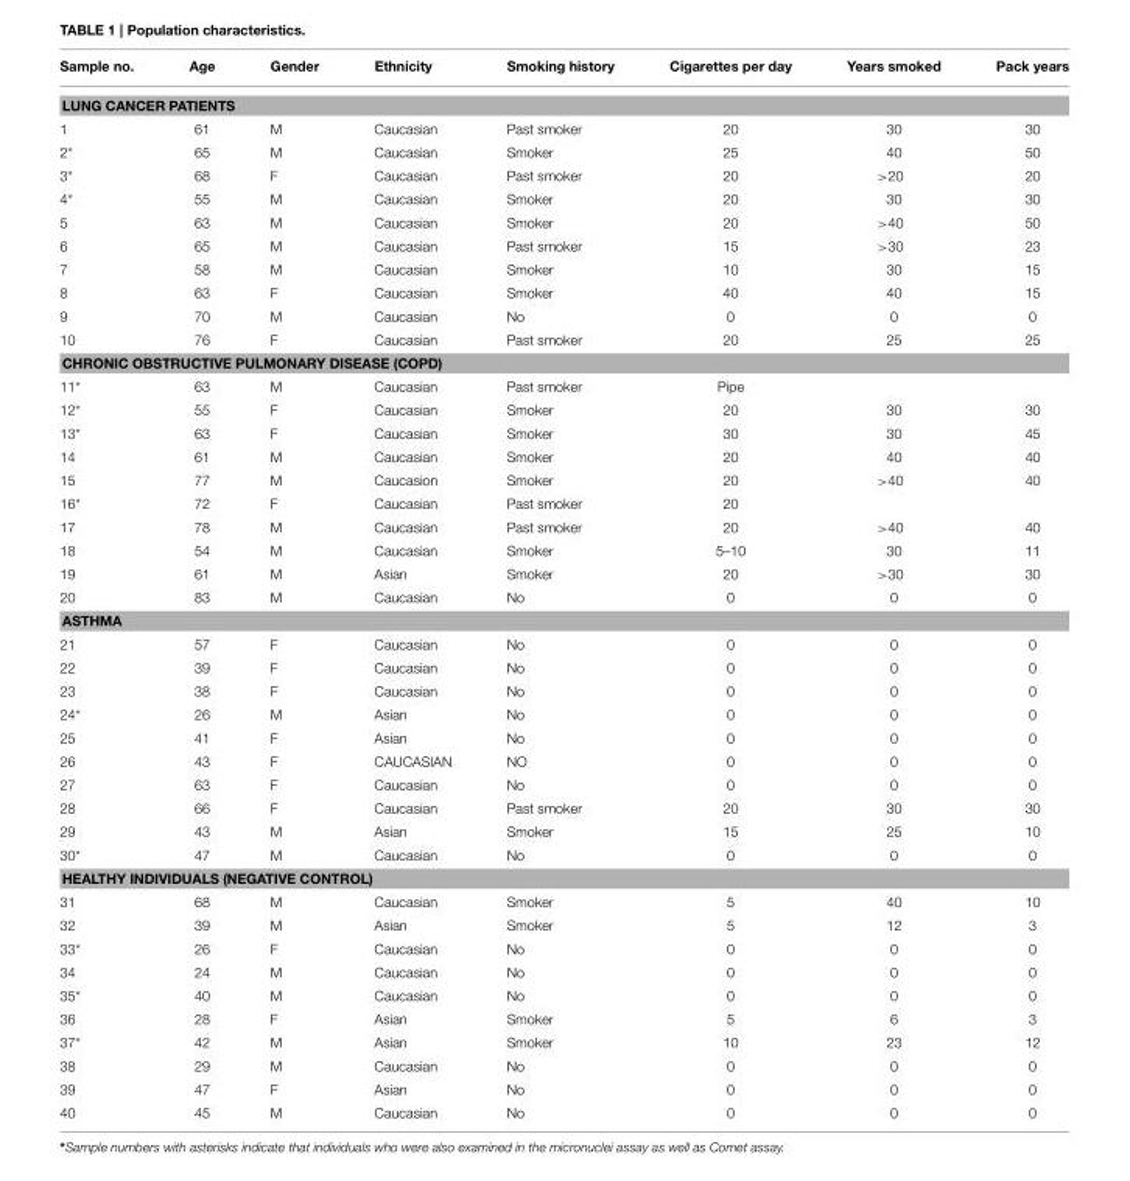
<table><thead><tr><td>Sample no.</td><td>Age</td><td>Gender</td><td>Ethnicity</td><td>Smoking history</td><td>Cigarettes per day</td><td>Years smoked</td><td>Pack years</td></tr></thead><tbody><tr><td colspan="8">LUNG CANCER PATIENTS</td></tr><tr><td>1</td><td>61</td><td>M</td><td>Caucasian</td><td>Past smoker</td><td>20</td><td>30</td><td>30</td></tr><tr><td>2*</td><td>65</td><td>M</td><td>Caucasian</td><td>Smoker</td><td>25</td><td>40</td><td>50</td></tr><tr><td>3*</td><td>68</td><td>F</td><td>Caucasian</td><td>Past smoker</td><td>20</td><td>&gt;20</td><td>20</td></tr><tr><td>4*</td><td>55</td><td>M</td><td>Caucasian</td><td>Smoker</td><td>20</td><td>30</td><td>30</td></tr><tr><td>5</td><td>63</td><td>M</td><td>Caucasian</td><td>Smoker</td><td>20</td><td>&gt;40</td><td>50</td></tr><tr><td>6</td><td>65</td><td>M</td><td>Caucasian</td><td>Past smoker</td><td>15</td><td>&gt;30</td><td>23</td></tr><tr><td>7</td><td>58</td><td>M</td><td>Caucasian</td><td>Smoker</td><td>10</td><td>30</td><td>15</td></tr><tr><td>8</td><td>63</td><td>F</td><td>Caucasian</td><td>Smoker</td><td>40</td><td>40</td><td>15</td></tr><tr><td>9</td><td>70</td><td>M</td><td>Caucasian</td><td>No</td><td>0</td><td>0</td><td>0</td></tr><tr><td>10</td><td>76</td><td>F</td><td>Caucasian</td><td>Past smoker</td><td>20</td><td>25</td><td>25</td></tr><tr><td colspan="8">CHRONIC OBSTRUCTIVE PULMONARY DISEASE (COPD)</td></tr><tr><td>11*</td><td>63</td><td>M</td><td>Caucasian</td><td>Past smoker</td><td>Pipe</td><td></td><td></td></tr><tr><td>12*</td><td>55</td><td>F</td><td>Caucasian</td><td>Smoker</td><td>20</td><td>30</td><td>30</td></tr><tr><td>13*</td><td>63</td><td>F</td><td>Caucasian</td><td>Smoker</td><td>30</td><td>30</td><td>45</td></tr><tr><td>14</td><td>61</td><td>M</td><td>Caucasian</td><td>Smoker</td><td>20</td><td>40</td><td>40</td></tr><tr><td>15</td><td>77</td><td>M</td><td>Caucasion</td><td>Smoker</td><td>20</td><td>&gt;40</td><td>40</td></tr><tr><td>16*</td><td>72</td><td>F</td><td>Caucasian</td><td>Past smoker</td><td>20</td><td></td><td></td></tr><tr><td>17</td><td>78</td><td>M</td><td>Caucasian</td><td>Past smoker</td><td>20</td><td>&gt;40</td><td>40</td></tr><tr><td>18</td><td>54</td><td>M</td><td>Caucasian</td><td>Smoker</td><td>5–10</td><td>30</td><td>11</td></tr><tr><td>19</td><td>61</td><td>M</td><td>Asian</td><td>Smoker</td><td>20</td><td>&gt;30</td><td>30</td></tr><tr><td>20</td><td>83</td><td>M</td><td>Caucasian</td><td>No</td><td>0</td><td>0</td><td>0</td></tr><tr><td colspan="8">ASTHMA</td></tr><tr><td>21</td><td>57</td><td>F</td><td>Caucasian</td><td>No</td><td>0</td><td>0</td><td>0</td></tr><tr><td>22</td><td>39</td><td>F</td><td>Caucasian</td><td>No</td><td>0</td><td>0</td><td>0</td></tr><tr><td>23</td><td>38</td><td>F</td><td>Caucasian</td><td>No</td><td>0</td><td>0</td><td>0</td></tr><tr><td>24*</td><td>26</td><td>M</td><td>Asian</td><td>No</td><td>0</td><td>0</td><td>0</td></tr><tr><td>25</td><td>41</td><td>F</td><td>Asian</td><td>No</td><td>0</td><td>0</td><td>0</td></tr><tr><td>26</td><td>43</td><td>F</td><td>CAUCASIAN</td><td>NO</td><td>0</td><td>0</td><td>0</td></tr><tr><td>27</td><td>63</td><td>F</td><td>Caucasian</td><td>No</td><td>0</td><td>0</td><td>0</td></tr><tr><td>28</td><td>66</td><td>F</td><td>Caucasian</td><td>Past smoker</td><td>20</td><td>30</td><td>30</td></tr><tr><td>29</td><td>43</td><td>M</td><td>Asian</td><td>Smoker</td><td>15</td><td>25</td><td>10</td></tr><tr><td>30*</td><td>47</td><td>M</td><td>Caucasian</td><td>No</td><td>0</td><td>0</td><td>0</td></tr><tr><td colspan="8">HEALTHY INDIVIDUALS (NEGATIVE CONTROL)</td></tr><tr><td>31</td><td>68</td><td>M</td><td>Caucasian</td><td>Smoker</td><td>5</td><td>40</td><td>10</td></tr><tr><td>32</td><td>39</td><td>M</td><td>Asian</td><td>Smoker</td><td>5</td><td>12</td><td>3</td></tr><tr><td>33*</td><td>26</td><td>F</td><td>Caucasian</td><td>No</td><td>0</td><td>0</td><td>0</td></tr><tr><td>34</td><td>24</td><td>M</td><td>Caucasian</td><td>No</td><td>0</td><td>0</td><td>0</td></tr><tr><td>35*</td><td>40</td><td>M</td><td>Caucasian</td><td>No</td><td>0</td><td>0</td><td>0</td></tr><tr><td>36</td><td>28</td><td>F</td><td>Asian</td><td>Smoker</td><td>5</td><td>6</td><td>3</td></tr><tr><td>37*</td><td>42</td><td>M</td><td>Asian</td><td>Smoker</td><td>10</td><td>23</td><td>12</td></tr><tr><td>38</td><td>29</td><td>M</td><td>Caucasian</td><td>No</td><td>0</td><td>0</td><td>0</td></tr><tr><td>39</td><td>47</td><td>F</td><td>Asian</td><td>No</td><td>0</td><td>0</td><td>0</td></tr><tr><td>40</td><td>45</td><td>M</td><td>Caucasian</td><td>No</td><td>0</td><td>0</td><td>0</td></tr></tbody></table>